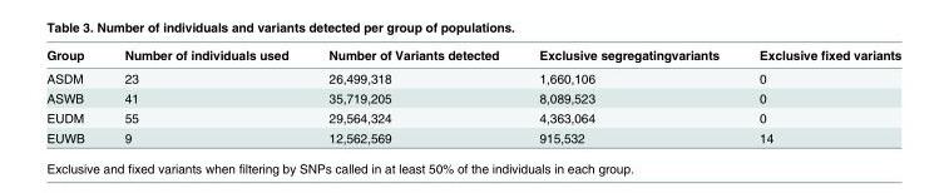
<table><thead><tr><td>Group</td><td>Number of individuals used</td><td>Number of Variants detected</td><td>Exclusive segregatingvariants</td><td>Exclusive fixed variants</td></tr></thead><tbody><tr><td>ASDM</td><td>23</td><td>26,499,318</td><td>1,660,106</td><td>0</td></tr><tr><td>ASWB</td><td>41</td><td>35,719,205</td><td>8,089,523</td><td>0</td></tr><tr><td>EUDM</td><td>55</td><td>29,564,324</td><td>4,363,064</td><td>0</td></tr><tr><td>EUWB</td><td>9</td><td>12,562,569</td><td>915,532</td><td>14</td></tr></tbody></table>